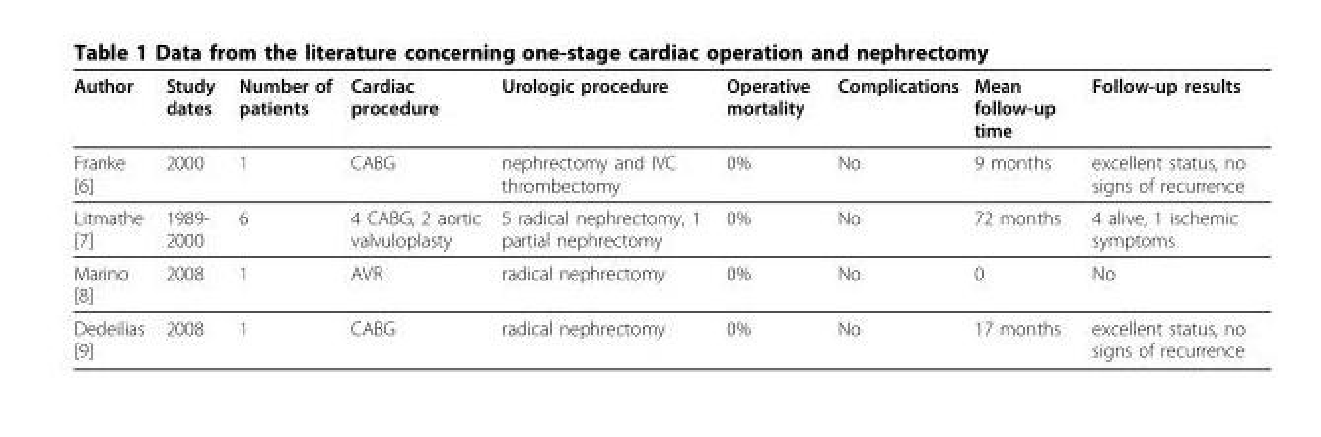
<table><thead><tr><td>Author</td><td>Study dates</td><td>Number of patients</td><td>Cardiac procedure</td><td>Urologic procedure</td><td>Operative mortality</td><td>Complications</td><td>Mean follow-up time</td><td>Follow-up results</td></tr></thead><tbody><tr><td>Franke [6]</td><td>2000</td><td>1</td><td>CABG</td><td>nephrectomy and IVC thrombectomy</td><td>0%</td><td>No</td><td>9 months</td><td>excellent status, no signs of recurrence</td></tr><tr><td>Litmathe [7]</td><td>1989- 2000</td><td>6</td><td>4 CABG, 2 aortic valvuloplasty</td><td>5 radical nephrectomy, 1 partial nephrectomy</td><td>0%</td><td>No</td><td>72 months</td><td>4 alive, 1 ischemic symptoms</td></tr><tr><td>Marino [8]</td><td>2008</td><td>1</td><td>AVR</td><td>radical nephrectomy</td><td>0%</td><td>No</td><td>0</td><td>No</td></tr><tr><td>Dedeilias [9]</td><td>2008</td><td>1</td><td>CABG</td><td>radical nephrectomy</td><td>0%</td><td>No</td><td>17 months</td><td>excellent status, no signs of recurrence</td></tr></tbody></table>